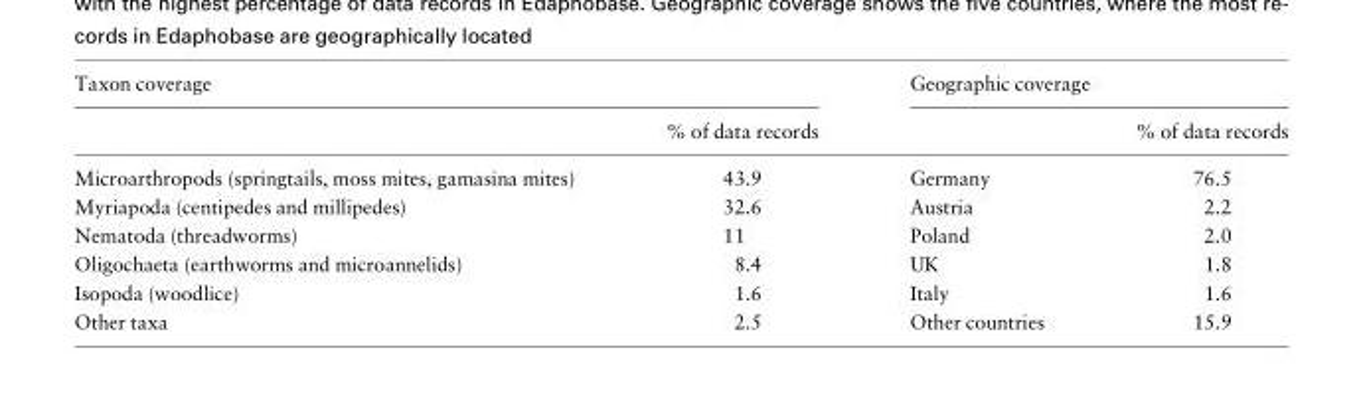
<table><thead><tr><td colspan="2">Taxon coverage</td><td colspan="2">Geographic coverage</td></tr><tr><td></td><td>% of data records</td><td></td><td>% of data records</td></tr></thead><tbody><tr><td>Microarthropods (springtails, moss mites, gamasina mites)</td><td>43.9</td><td>Germany</td><td>76.5</td></tr><tr><td>Myriapoda (centipedes and millipedes)</td><td>32.6</td><td>Austria</td><td>2.2</td></tr><tr><td>Nematoda (threadworms)</td><td>11</td><td>Poland</td><td>2.0</td></tr><tr><td>Oligochaeta (earthworms and microannelids)</td><td>8.4</td><td>UK</td><td>1.8</td></tr><tr><td>Isopoda (woodlice)</td><td>1.6</td><td>Italy</td><td>1.6</td></tr><tr><td>Other taxa</td><td>2.5</td><td>Other countries</td><td>15.9</td></tr></tbody></table>